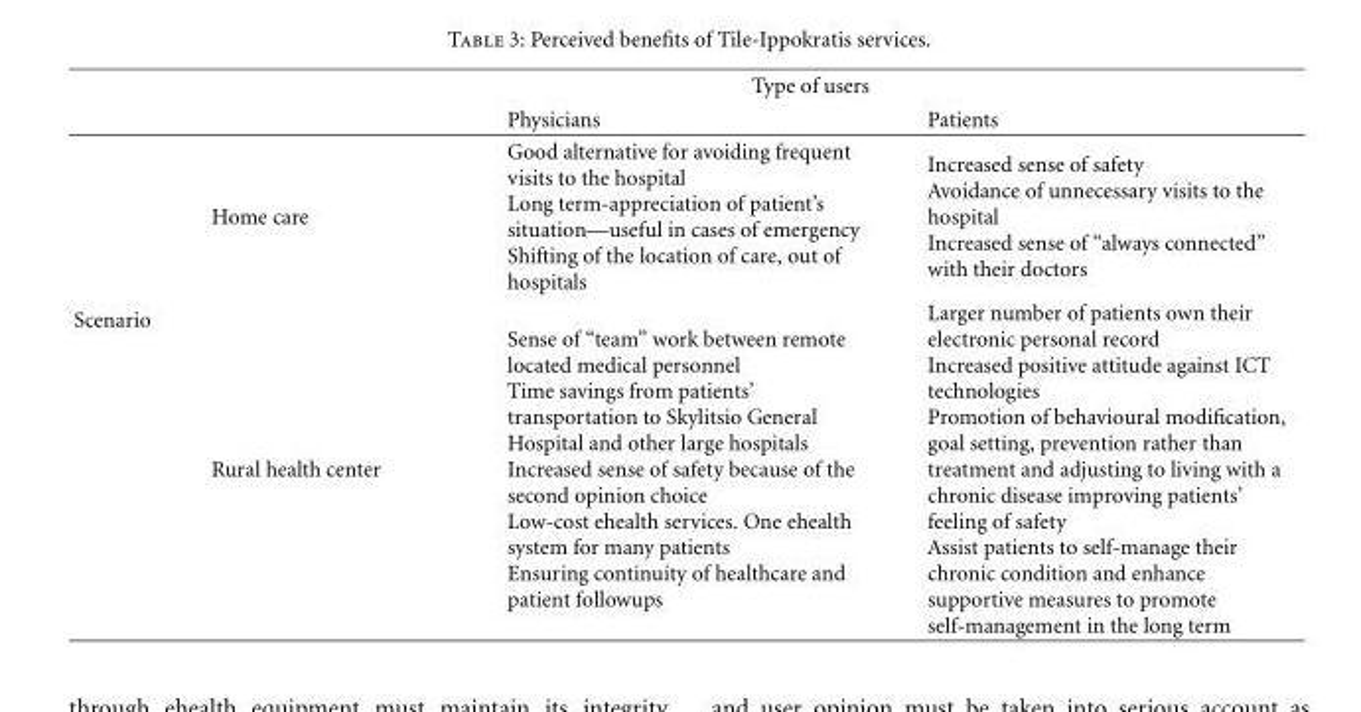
<table><thead><tr><td rowspan="2"></td><td rowspan="2"></td><td colspan="2">Type of users</td></tr><tr><td>Physicians</td><td>Patients</td></tr></thead><tbody><tr><td rowspan="2">Scenario</td><td>Home care</td><td>Good alternative for avoiding frequent visits to the hospital Long term-appreciation of patient’s situation—useful in cases of emergency Shifting of the location of care, out of hospitals</td><td>Increased sense of safety Avoidance of unnecessary visits to the hospital Increased sense of “always connected” with their doctors</td></tr><tr><td>Rural health center</td><td>Sense of “team” work between remote located medical personnel Time savings from patients’ transportation to Skylitsio General Hospital and other large hospitals Increased sense of safety because of the second opinion choice Low-cost ehealth services. One ehealth system for many patients Ensuring continuity of healthcare and patient followups</td><td>Larger number of patients own their electronic personal record Increased positive attitude against ICT technologies Promotion of behavioural modification, goal setting, prevention rather than treatment and adjusting to living with a chronic disease improving patients’ feeling of safety Assist patients to self-manage their chronic condition and enhance supportive measures to promote self-management in the long term</td></tr></tbody></table>